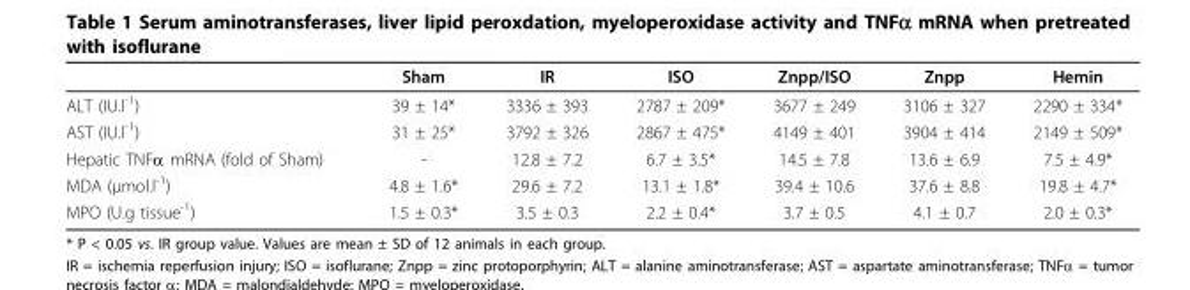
<table><thead><tr><td></td><td>Sham</td><td>IR</td><td>ISO</td><td>Znpp/ISO</td><td>Znpp</td><td>Hemin</td></tr></thead><tbody><tr><td>ALT (IU.l<sup>-1</sup>)</td><td>39 ± 14*</td><td>3336 ± 393</td><td>2787 ± 209*</td><td>3677 ± 249</td><td>3106 ± 327</td><td>2290 ± 334*</td></tr><tr><td>AST (IU.l<sup>-1</sup>)</td><td>31 ± 25*</td><td>3792 ± 326</td><td>2867 ± 475*</td><td>4149 ± 401</td><td>3904 ± 414</td><td>2149 ± 509*</td></tr><tr><td>Hepatic TNFα mRNA (fold of Sham)</td><td>-</td><td>12.8 ± 7.2</td><td>6.7 ± 3.5*</td><td>14.5 ± 7.8</td><td>13.6 ± 6.9</td><td>7.5 ± 4.9*</td></tr><tr><td>MDA (μmol.l<sup>-1</sup>)</td><td>4.8 ± 1.6*</td><td>29.6 ± 7.2</td><td>13.1 ± 1.8*</td><td>39.4 ± 10.6</td><td>37.6 ± 8.8</td><td>19.8 ± 4.7*</td></tr><tr><td>MPO (U.g tissue<sup>-1</sup>)</td><td>1.5 ± 0.3*</td><td>3.5 ± 0.3</td><td>2.2 ± 0.4*</td><td>3.7 ± 0.5</td><td>4.1 ± 0.7</td><td>2.0 ± 0.3*</td></tr></tbody></table>